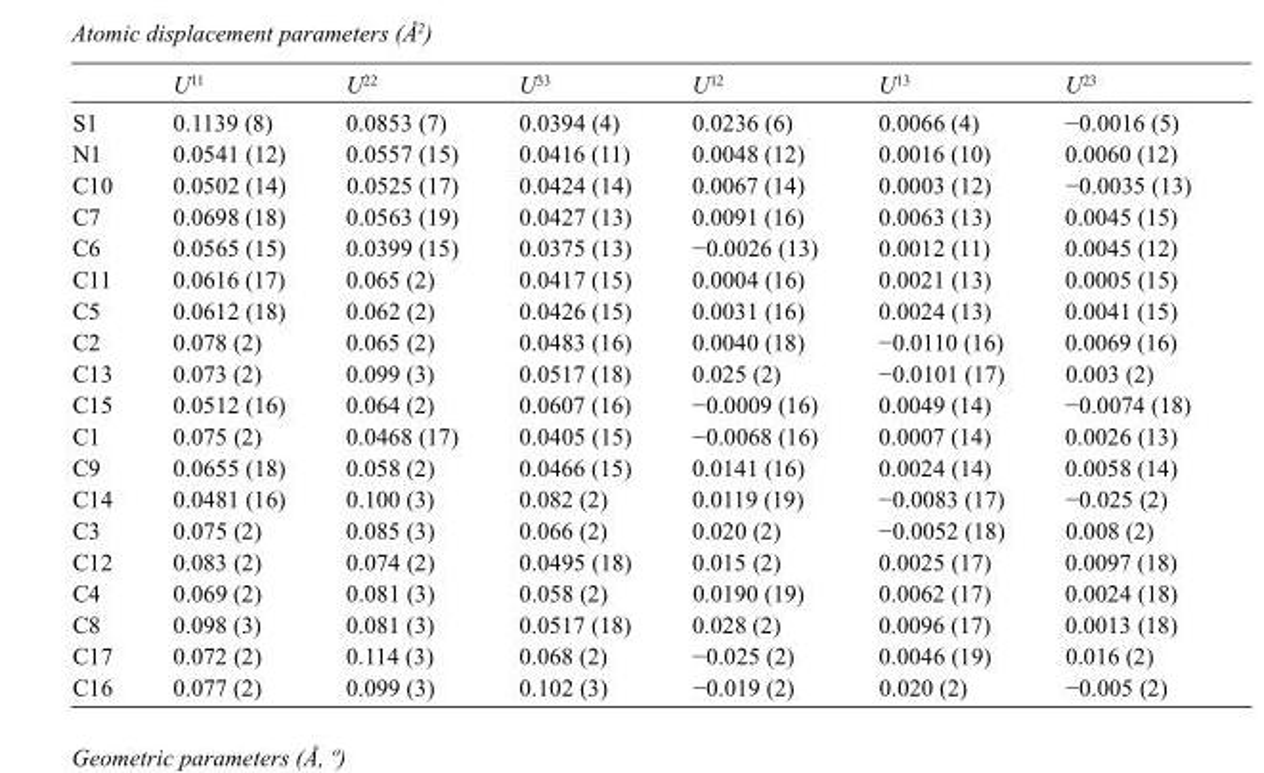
<table><thead><tr><td></td><td>U<sup>11</sup></td><td>U<sup>22</sup></td><td>U<sup>33</sup></td><td>U<sup>12</sup></td><td>U<sup>13</sup></td><td>U<sup>23</sup></td></tr></thead><tbody><tr><td>S1</td><td>0.1139 (8)</td><td>0.0853 (7)</td><td>0.0394 (4)</td><td>0.0236 (6)</td><td>0.0066 (4)</td><td>−0.0016 (5)</td></tr><tr><td>N1</td><td>0.0541 (12)</td><td>0.0557 (15)</td><td>0.0416 (11)</td><td>0.0048 (12)</td><td>0.0016 (10)</td><td>0.0060 (12)</td></tr><tr><td>C10</td><td>0.0502 (14)</td><td>0.0525 (17)</td><td>0.0424 (14)</td><td>0.0067 (14)</td><td>0.0003 (12)</td><td>−0.0035 (13)</td></tr><tr><td>C7</td><td>0.0698 (18)</td><td>0.0563 (19)</td><td>0.0427 (13)</td><td>0.0091 (16)</td><td>0.0063 (13)</td><td>0.0045 (15)</td></tr><tr><td>C6</td><td>0.0565 (15)</td><td>0.0399 (15)</td><td>0.0375 (13)</td><td>−0.0026 (13)</td><td>0.0012 (11)</td><td>0.0045 (12)</td></tr><tr><td>C11</td><td>0.0616 (17)</td><td>0.065 (2)</td><td>0.0417 (15)</td><td>0.0004 (16)</td><td>0.0021 (13)</td><td>0.0005 (15)</td></tr><tr><td>C5</td><td>0.0612 (18)</td><td>0.062 (2)</td><td>0.0426 (15)</td><td>0.0031 (16)</td><td>0.0024 (13)</td><td>0.0041 (15)</td></tr><tr><td>C2</td><td>0.078 (2)</td><td>0.065 (2)</td><td>0.0483 (16)</td><td>0.0040 (18)</td><td>−0.0110 (16)</td><td>0.0069 (16)</td></tr><tr><td>C13</td><td>0.073 (2)</td><td>0.099 (3)</td><td>0.0517 (18)</td><td>0.025 (2)</td><td>−0.0101 (17)</td><td>0.003 (2)</td></tr><tr><td>C15</td><td>0.0512 (16)</td><td>0.064 (2)</td><td>0.0607 (16)</td><td>−0.0009 (16)</td><td>0.0049 (14)</td><td>−0.0074 (18)</td></tr><tr><td>C1</td><td>0.075 (2)</td><td>0.0468 (17)</td><td>0.0405 (15)</td><td>−0.0068 (16)</td><td>0.0007 (14)</td><td>0.0026 (13)</td></tr><tr><td>C9</td><td>0.0655 (18)</td><td>0.058 (2)</td><td>0.0466 (15)</td><td>0.0141 (16)</td><td>0.0024 (14)</td><td>0.0058 (14)</td></tr><tr><td>C14</td><td>0.0481 (16)</td><td>0.100 (3)</td><td>0.082 (2)</td><td>0.0119 (19)</td><td>−0.0083 (17)</td><td>−0.025 (2)</td></tr><tr><td>C3</td><td>0.075 (2)</td><td>0.085 (3)</td><td>0.066 (2)</td><td>0.020 (2)</td><td>−0.0052 (18)</td><td>0.008 (2)</td></tr><tr><td>C12</td><td>0.083 (2)</td><td>0.074 (2)</td><td>0.0495 (18)</td><td>0.015 (2)</td><td>0.0025 (17)</td><td>0.0097 (18)</td></tr><tr><td>C4</td><td>0.069 (2)</td><td>0.081 (3)</td><td>0.058 (2)</td><td>0.0190 (19)</td><td>0.0062 (17)</td><td>0.0024 (18)</td></tr><tr><td>C8</td><td>0.098 (3)</td><td>0.081 (3)</td><td>0.0517 (18)</td><td>0.028 (2)</td><td>0.0096 (17)</td><td>0.0013 (18)</td></tr><tr><td>C17</td><td>0.072 (2)</td><td>0.114 (3)</td><td>0.068 (2)</td><td>−0.025 (2)</td><td>0.0046 (19)</td><td>0.016 (2)</td></tr><tr><td>C16</td><td>0.077 (2)</td><td>0.099 (3)</td><td>0.102 (3)</td><td>−0.019 (2)</td><td>0.020 (2)</td><td>−0.005 (2)</td></tr></tbody></table>